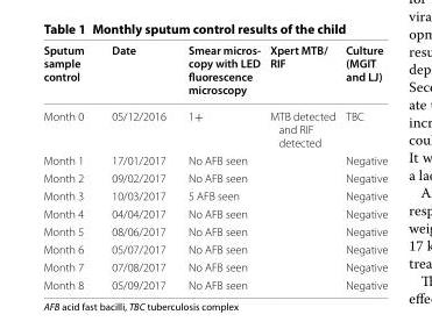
<table><thead><tr><td>Sputum sample control</td><td>Date</td><td>Smear micros- copy with LED fluorescence microscopy</td><td>Xpert MTB/ RIF</td><td>Culture (MGIT and LJ)</td></tr></thead><tbody><tr><td>Month 0</td><td>05/12/2016</td><td>1+</td><td>MTB detected and RIF detected</td><td>TBC</td></tr><tr><td>Month 1</td><td>17/01/2017</td><td>No AFB seen</td><td></td><td>Negative</td></tr><tr><td>Month 2</td><td>09/02/2017</td><td>No AFB seen</td><td></td><td>Negative</td></tr><tr><td>Month 3</td><td>10/03/2017</td><td>5 AFB seen</td><td></td><td>Negative</td></tr><tr><td>Month 4</td><td>04/04/2017</td><td>No AFB seen</td><td></td><td>Negative</td></tr><tr><td>Month 5</td><td>08/06/2017</td><td>No AFB seen</td><td></td><td>Negative</td></tr><tr><td>Month 6</td><td>05/07/2017</td><td>No AFB seen</td><td></td><td>Negative</td></tr><tr><td>Month 7</td><td>07/08/2017</td><td>No AFB seen</td><td></td><td>Negative</td></tr><tr><td>Month 8</td><td>05/09/2017</td><td>No AFB seen</td><td></td><td>Negative</td></tr></tbody></table>